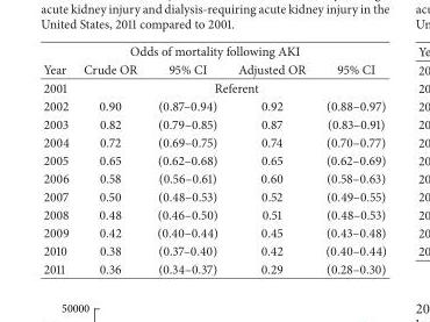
<table><thead><tr><td colspan="5">Odds of mortality following AKI</td></tr><tr><td>Year</td><td>Crude OR</td><td>95% CI</td><td>Adjusted OR</td><td>95% CI</td></tr></thead><tbody><tr><td>2001</td><td colspan="4">Referent</td></tr><tr><td>2002</td><td>0.90</td><td>(0.87–0.94)</td><td>0.92</td><td>(0.88–0.97)</td></tr><tr><td>2003</td><td>0.82</td><td>(0.79–0.85)</td><td>0.87</td><td>(0.83–0.91)</td></tr><tr><td>2004</td><td>0.72</td><td>(0.69–0.75)</td><td>0.74</td><td>(0.70–0.77)</td></tr><tr><td>2005</td><td>0.65</td><td>(0.62–0.68)</td><td>0.65</td><td>(0.62–0.69)</td></tr><tr><td>2006</td><td>0.58</td><td>(0.56–0.61)</td><td>0.60</td><td>(0.58–0.63)</td></tr><tr><td>2007</td><td>0.50</td><td>(0.48–0.53)</td><td>0.52</td><td>(0.49–0.55)</td></tr><tr><td>2008</td><td>0.48</td><td>(0.46–0.50)</td><td>0.51</td><td>(0.48–0.53)</td></tr><tr><td>2009</td><td>0.42</td><td>(0.40–0.44)</td><td>0.45</td><td>(0.43–0.48)</td></tr><tr><td>2010</td><td>0.38</td><td>(0.37–0.40)</td><td>0.42</td><td>(0.40–0.44)</td></tr><tr><td>2011</td><td>0.36</td><td>(0.34–0.37)</td><td>0.29</td><td>(0.28–0.30)</td></tr></tbody></table>